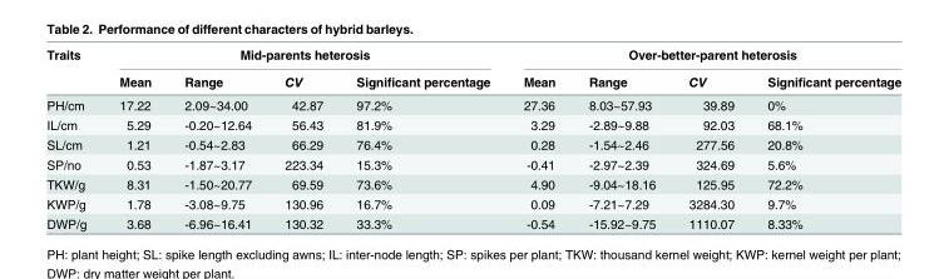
<table><thead><tr><td rowspan="2">Traits</td><td colspan="4">Mid-parents heterosis</td><td colspan="4">Over-better-parent heterosis</td></tr><tr><td>Mean</td><td>Range</td><td>CV</td><td>Significant percentage</td><td>Mean</td><td>Range</td><td>CV</td><td>Significant percentage</td></tr></thead><tbody><tr><td>PH/cm</td><td>17.22</td><td>2.09~34.00</td><td>42.87</td><td>97.2%</td><td>27.36</td><td>8.03~57.93</td><td>39.89</td><td>0%</td></tr><tr><td>IL/cm</td><td>5.29</td><td>-0.20~12.64</td><td>56.43</td><td>81.9%</td><td>3.29</td><td>-2.89~9.88</td><td>92.03</td><td>68.1%</td></tr><tr><td>SL/cm</td><td>1.21</td><td>-0.54~2.83</td><td>66.29</td><td>76.4%</td><td>0.28</td><td>-1.54~2.46</td><td>277.56</td><td>20.8%</td></tr><tr><td>SP/no</td><td>0.53</td><td>-1.87~3.17</td><td>223.34</td><td>15.3%</td><td>-0.41</td><td>-2.97~2.39</td><td>324.69</td><td>5.6%</td></tr><tr><td>TKW/g</td><td>8.31</td><td>-1.50~20.77</td><td>69.59</td><td>73.6%</td><td>4.90</td><td>-9.04~18.16</td><td>125.95</td><td>72.2%</td></tr><tr><td>KWP/g</td><td>1.78</td><td>-3.08~9.75</td><td>130.96</td><td>16.7%</td><td>0.09</td><td>-7.21~7.29</td><td>3284.30</td><td>9.7%</td></tr><tr><td>DWP/g</td><td>3.68</td><td>-6.96~16.41</td><td>130.32</td><td>33.3%</td><td>-0.54</td><td>-15.92~9.75</td><td>1110.07</td><td>8.33%</td></tr></tbody></table>